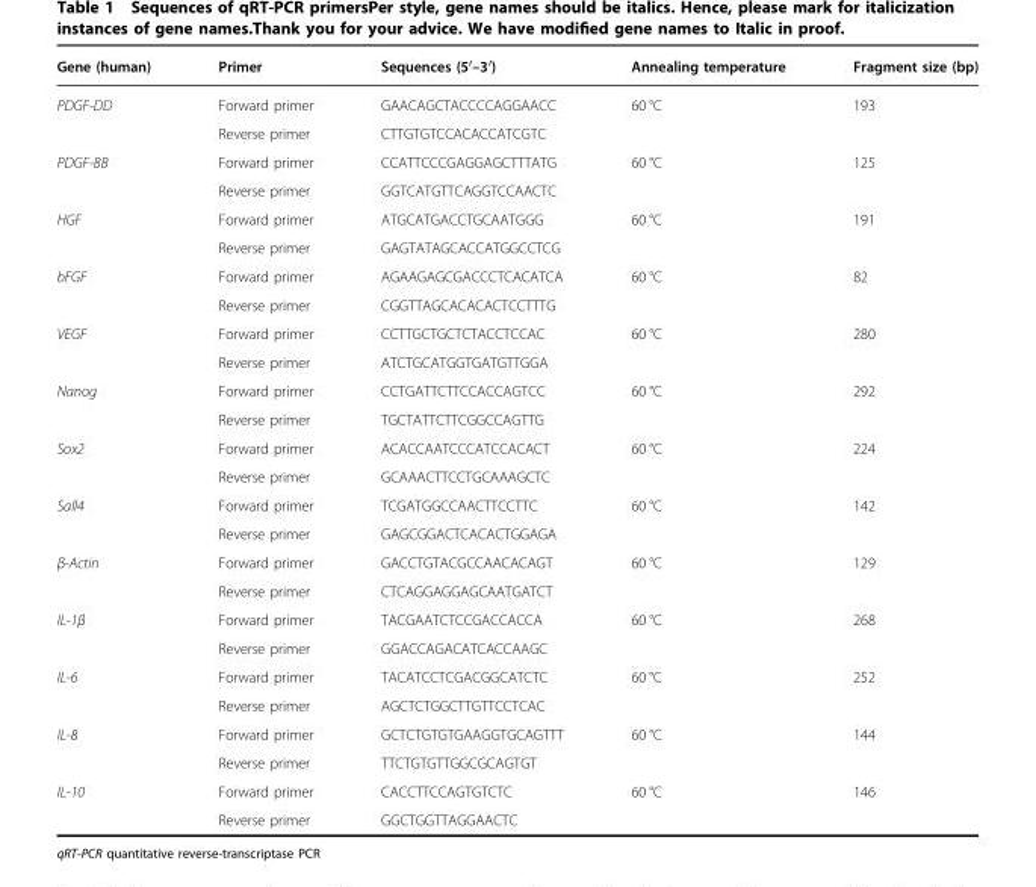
<table><thead><tr><td>Gene (human)</td><td>Primer</td><td>Sequences (5′–3′)</td><td>Annealing temperature</td><td>Fragment size (bp)</td></tr></thead><tbody><tr><td rowspan="2">PDGF-DD</td><td>Forward primer</td><td>GAACAGCTACCCCAGGAACC</td><td>60 °C</td><td>193</td></tr><tr><td>Reverse primer</td><td>CTTGTGTCCACACCATCGTC</td><td></td><td></td></tr><tr><td rowspan="2">PDGF-BB</td><td>Forward primer</td><td>CCATTCCCGAGGAGCTTTATG</td><td>60 °C</td><td>125</td></tr><tr><td>Reverse primer</td><td>GGTCATGTTCAGGTCCAACTC</td><td></td><td></td></tr><tr><td rowspan="2">HGF</td><td>Forward primer</td><td>ATGCATGACCTGCAATGGG</td><td>60 °C</td><td>191</td></tr><tr><td>Reverse primer</td><td>GAGTATAGCACCATGGCCTCG</td><td></td><td></td></tr><tr><td rowspan="2">bFGF</td><td>Forward primer</td><td>AGAAGAGCGACCCTCACATCA</td><td>60 °C</td><td>82</td></tr><tr><td>Reverse primer</td><td>CGGTTAGCACACACTCCTTTG</td><td></td><td></td></tr><tr><td rowspan="2">VEGF</td><td>Forward primer</td><td>CCTTGCTGCTCTACCTCCAC</td><td>60 °C</td><td>280</td></tr><tr><td>Reverse primer</td><td>ATCTGCATGGTGATGTTGGA</td><td></td><td></td></tr><tr><td rowspan="2">Nanog</td><td>Forward primer</td><td>CCTGATTCTTCCACCAGTCC</td><td>60 °C</td><td>292</td></tr><tr><td>Reverse primer</td><td>TGCTATTCTTCGGCCAGTTG</td><td></td><td></td></tr><tr><td rowspan="2">Sox2</td><td>Forward primer</td><td>ACACCAATCCCATCCACACT</td><td>60 °C</td><td>224</td></tr><tr><td>Reverse primer</td><td>GCAAACTTCCTGCAAAGCTC</td><td></td><td></td></tr><tr><td rowspan="2">Sall4</td><td>Forward primer</td><td>TCGATGGCCAACTTCCTTC</td><td>60 °C</td><td>142</td></tr><tr><td>Reverse primer</td><td>GAGCGGACTCACACTGGAGA</td><td></td><td></td></tr><tr><td rowspan="2">β-Actin</td><td>Forward primer</td><td>GACCTGTACGCCAACACAGT</td><td>60 °C</td><td>129</td></tr><tr><td>Reverse primer</td><td>CTCAGGAGGAGCAATGATCT</td><td></td><td></td></tr><tr><td rowspan="2">IL-1β</td><td>Forward primer</td><td>TACGAATCTCCGACCACCA</td><td>60 °C</td><td>268</td></tr><tr><td>Reverse primer</td><td>GGACCAGACATCACCAAGC</td><td></td><td></td></tr><tr><td rowspan="2">IL-6</td><td>Forward primer</td><td>TACATCCTCGACGGCATCTC</td><td>60 °C</td><td>252</td></tr><tr><td>Reverse primer</td><td>AGCTCTGGCTTGTTCCTCAC</td><td></td><td></td></tr><tr><td rowspan="2">IL-8</td><td>Forward primer</td><td>GCTCTGTGTGAAGGTGCAGTTT</td><td>60 °C</td><td>144</td></tr><tr><td>Reverse primer</td><td>TTCTGTGTTGGCGCAGTGT</td><td></td><td></td></tr><tr><td rowspan="2">IL-10</td><td>Forward primer</td><td>CACCTTCCAGTGTCTC</td><td>60 °C</td><td>146</td></tr><tr><td>Reverse primer</td><td>GGCTGGTTAGGAACTC</td><td></td><td></td></tr></tbody></table>